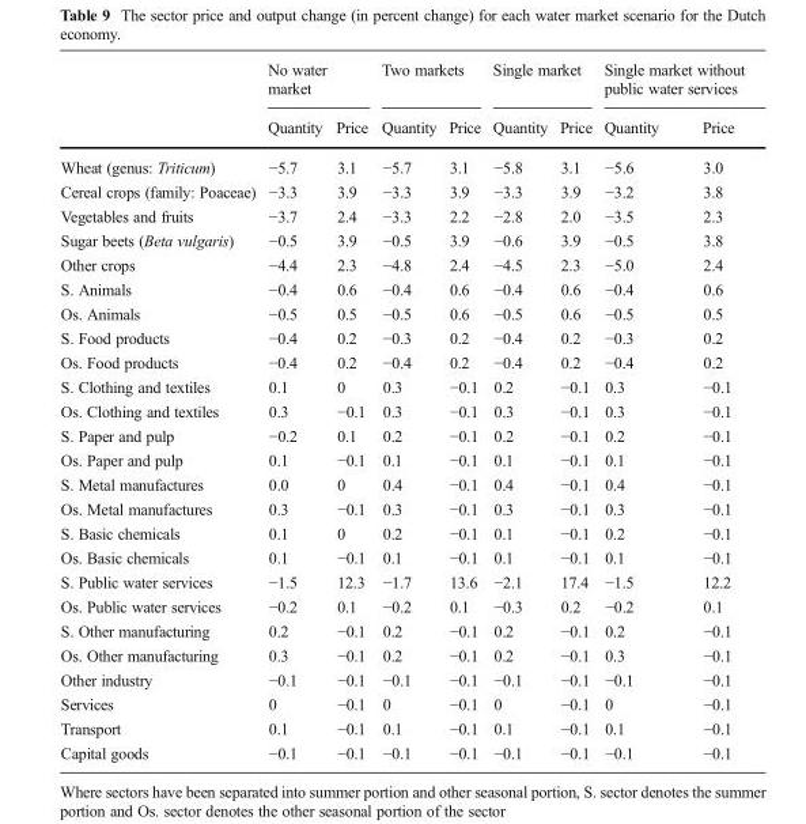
<table><thead><tr><td rowspan="2"></td><td colspan="2">No water market</td><td colspan="2">Two markets</td><td colspan="2">Single market</td><td colspan="2">Single market without public water services</td></tr><tr><td>Quantity</td><td>Price</td><td>Quantity</td><td>Price</td><td>Quantity</td><td>Price</td><td>Quantity</td><td>Price</td></tr></thead><tbody><tr><td>Wheat (genus: Triticum)</td><td>−5.7</td><td>3.1</td><td>−5.7</td><td>3.1</td><td>−5.8</td><td>3.1</td><td>−5.6</td><td>3.0</td></tr><tr><td>Cereal crops (family: Poaceae)</td><td>−3.3</td><td>3.9</td><td>−3.3</td><td>3.9</td><td>−3.3</td><td>3.9</td><td>−3.2</td><td>3.8</td></tr><tr><td>Vegetables and fruits</td><td>−3.7</td><td>2.4</td><td>−3.3</td><td>2.2</td><td>−2.8</td><td>2.0</td><td>−3.5</td><td>2.3</td></tr><tr><td>Sugar beets (Beta vulgaris)</td><td>−0.5</td><td>3.9</td><td>−0.5</td><td>3.9</td><td>−0.6</td><td>3.9</td><td>−0.5</td><td>3.8</td></tr><tr><td>Other crops</td><td>−4.4</td><td>2.3</td><td>−4.8</td><td>2.4</td><td>−4.5</td><td>2.3</td><td>−5.0</td><td>2.4</td></tr><tr><td>S. Animals</td><td>−0.4</td><td>0.6</td><td>−0.4</td><td>0.6</td><td>−0.4</td><td>0.6</td><td>−0.4</td><td>0.6</td></tr><tr><td>Os. Animals</td><td>−0.5</td><td>0.5</td><td>−0.5</td><td>0.6</td><td>−0.5</td><td>0.6</td><td>−0.5</td><td>0.5</td></tr><tr><td>S. Food products</td><td>−0.4</td><td>0.2</td><td>−0.3</td><td>0.2</td><td>−0.4</td><td>0.2</td><td>−0.3</td><td>0.2</td></tr><tr><td>Os. Food products</td><td>−0.4</td><td>0.2</td><td>−0.4</td><td>0.2</td><td>−0.4</td><td>0.2</td><td>−0.4</td><td>0.2</td></tr><tr><td>S. Clothing and textiles</td><td>0.1</td><td>0</td><td>0.3</td><td>−0.1</td><td>0.2</td><td>−0.1</td><td>0.3</td><td>−0.1</td></tr><tr><td>Os. Clothing and textiles</td><td>0.3</td><td>−0.1</td><td>0.3</td><td>−0.1</td><td>0.3</td><td>−0.1</td><td>0.3</td><td>−0.1</td></tr><tr><td>S. Paper and pulp</td><td>−0.2</td><td>0.1</td><td>0.2</td><td>−0.1</td><td>0.2</td><td>−0.1</td><td>0.2</td><td>−0.1</td></tr><tr><td>Os. Paper and pulp</td><td>0.1</td><td>−0.1</td><td>0.1</td><td>−0.1</td><td>0.1</td><td>−0.1</td><td>0.1</td><td>−0.1</td></tr><tr><td>S. Metal manufactures</td><td>0.0</td><td>0</td><td>0.4</td><td>−0.1</td><td>0.4</td><td>−0.1</td><td>0.4</td><td>−0.1</td></tr><tr><td>Os. Metal manufactures</td><td>0.3</td><td>−0.1</td><td>0.3</td><td>−0.1</td><td>0.3</td><td>−0.1</td><td>0.3</td><td>−0.1</td></tr><tr><td>S. Basic chemicals</td><td>0.1</td><td>0</td><td>0.2</td><td>−0.1</td><td>0.1</td><td>−0.1</td><td>0.2</td><td>−0.1</td></tr><tr><td>Os. Basic chemicals</td><td>0.1</td><td>−0.1</td><td>0.1</td><td>−0.1</td><td>0.1</td><td>−0.1</td><td>0.1</td><td>−0.1</td></tr><tr><td>S. Public water services</td><td>−1.5</td><td>12.3</td><td>−1.7</td><td>13.6</td><td>−2.1</td><td>17.4</td><td>−1.5</td><td>12.2</td></tr><tr><td>Os. Public water services</td><td>−0.2</td><td>0.1</td><td>−0.2</td><td>0.1</td><td>−0.3</td><td>0.2</td><td>−0.2</td><td>0.1</td></tr><tr><td>S. Other manufacturing</td><td>0.2</td><td>−0.1</td><td>0.2</td><td>−0.1</td><td>0.2</td><td>−0.1</td><td>0.2</td><td>−0.1</td></tr><tr><td>Os. Other manufacturing</td><td>0.3</td><td>−0.1</td><td>0.2</td><td>−0.1</td><td>0.2</td><td>−0.1</td><td>0.3</td><td>−0.1</td></tr><tr><td>Other industry</td><td>−0.1</td><td>−0.1</td><td>−0.1</td><td>−0.1</td><td>−0.1</td><td>−0.1</td><td>−0.1</td><td>−0.1</td></tr><tr><td>Services</td><td>0</td><td>−0.1</td><td>0</td><td>−0.1</td><td>0</td><td>−0.1</td><td>0</td><td>−0.1</td></tr><tr><td>Transport</td><td>0.1</td><td>−0.1</td><td>0.1</td><td>−0.1</td><td>0.1</td><td>−0.1</td><td>0.1</td><td>−0.1</td></tr><tr><td>Capital goods</td><td>−0.1</td><td>−0.1</td><td>−0.1</td><td>−0.1</td><td>−0.1</td><td>−0.1</td><td>−0.1</td><td>−0.1</td></tr></tbody></table>